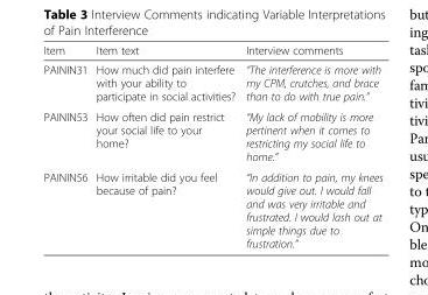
<table><thead><tr><td>Item</td><td>Item text</td><td>Interview comments</td></tr></thead><tbody><tr><td>PAININ31</td><td>How much did pain interfere with your ability to participate in social activities?</td><td>“The interference is more with my CPM, crutches, and brace than to do with true pain.”</td></tr><tr><td>PAININ53</td><td>How often did pain restrict your social life to your home?</td><td>“My lack of mobility is more pertinent when it comes to restricting my social life to home.”</td></tr><tr><td>PAININ56</td><td>How irritable did you feel because of pain?</td><td>“In addition to pain, my knees would give out. I would fall and was very irritable and frustrated. I would lash out at simple things due to frustration.”</td></tr></tbody></table>